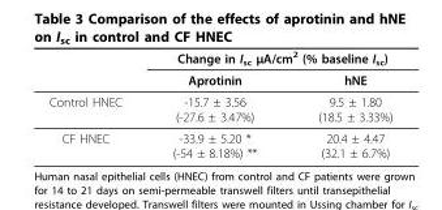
<table><thead><tr><td rowspan="2"></td><td colspan="2">Change in I<sub>sc</sub> μA/cm<sup>2</sup> (% baseline I<sub>sc</sub>)</td></tr><tr><td>Aprotinin</td><td>hNE</td></tr></thead><tbody><tr><td>Control HNEC</td><td>-15.7 ± 3.56 (-27.6 ± 3.47%)</td><td>9.5 ± 1.80 (18.5 ± 3.33%)</td></tr><tr><td>CF HNEC</td><td>-33.9 ± 5.20 * (-54 ± 8.18%) **</td><td>20.4 ± 4.47 (32.1 ± 6.7%)</td></tr></tbody></table>